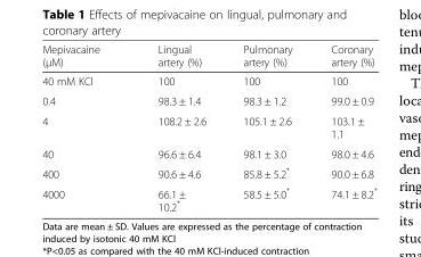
<table><thead><tr><td>Mepivacaine (μM)</td><td>Lingual artery (%)</td><td>Pulmonary artery (%)</td><td>Coronary artery (%)</td></tr></thead><tbody><tr><td>40 mM KCl</td><td>100</td><td>100</td><td>100</td></tr><tr><td>0.4</td><td>98.3 ± 1.4</td><td>98.3 ± 1.2</td><td>99.0 ± 0.9</td></tr><tr><td>4</td><td>108.2 ± 2.6</td><td>105.1 ± 2.6</td><td>103.1 ± 1.1</td></tr><tr><td>40</td><td>96.6 ± 6.4</td><td>98.1 ± 3.0</td><td>98.0 ± 4.6</td></tr><tr><td>400</td><td>90.6 ± 4.6</td><td>85.8 ± 5.2*</td><td>90.0 ± 6.8</td></tr><tr><td>4000</td><td>66.1 ± 10.2*</td><td>58.5 ± 5.0*</td><td>74.1 ± 8.2*</td></tr></tbody></table>